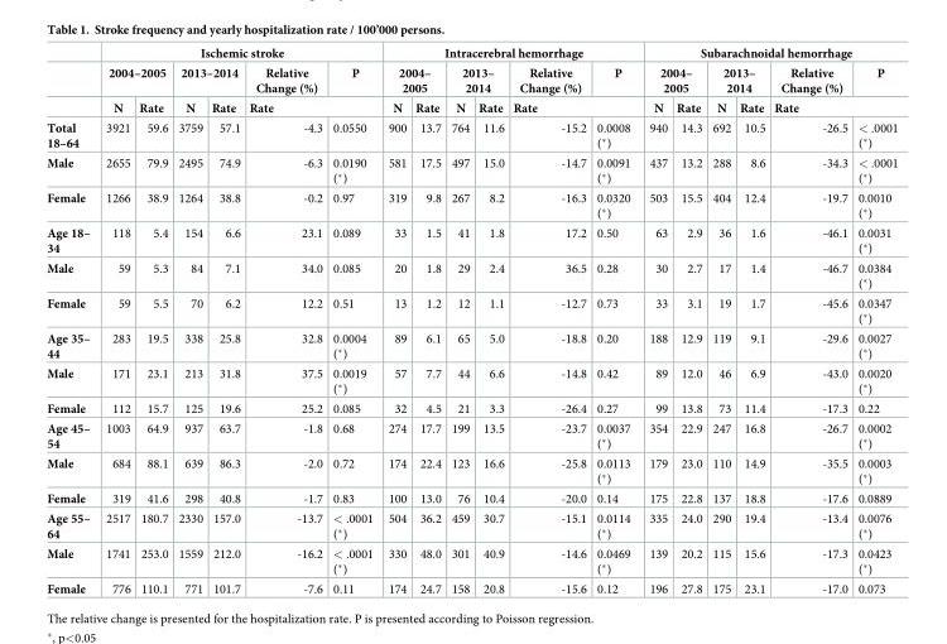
<table><thead><tr><td rowspan="3"></td><td colspan="6">Ischemic stroke</td><td colspan="6">Intracerebral hemorrhage</td><td colspan="6">Subarachnoidal hemorrhage</td></tr><tr><td colspan="2">2004–2005</td><td colspan="2">2013–2014</td><td>Relative Change (%)</td><td>P</td><td colspan="2">2004– 2005</td><td colspan="2">2013– 2014</td><td>Relative Change (%)</td><td>P</td><td colspan="2">2004– 2005</td><td colspan="2">2013– 2014</td><td>Relative Change (%)</td><td>P</td></tr><tr><td>N</td><td>Rate</td><td>N</td><td>Rate</td><td colspan="2">Rate</td><td>N</td><td>Rate</td><td>N</td><td>Rate</td><td colspan="2">Rate</td><td>N</td><td>Rate</td><td>N</td><td>Rate</td><td colspan="2">Rate</td></tr></thead><tbody><tr><td>Total 18–64</td><td>3921</td><td>59.6</td><td>3759</td><td>57.1</td><td>-4.3</td><td>0.0550</td><td>900</td><td>13.7</td><td>764</td><td>11.6</td><td>-15.2</td><td>0.0008 (*)</td><td>940</td><td>14.3</td><td>692</td><td>10.5</td><td>-26.5</td><td>&lt; .0001 (*)</td></tr><tr><td>Male</td><td>2655</td><td>79.9</td><td>2495</td><td>74.9</td><td>-6.3</td><td>0.0190 (*)</td><td>581</td><td>17.5</td><td>497</td><td>15.0</td><td>-14.7</td><td>0.0091 (*)</td><td>437</td><td>13.2</td><td>288</td><td>8.6</td><td>-34.3</td><td>&lt; .0001 (*)</td></tr><tr><td>Female</td><td>1266</td><td>38.9</td><td>1264</td><td>38.8</td><td>-0.2</td><td>0.97</td><td>319</td><td>9.8</td><td>267</td><td>8.2</td><td>-16.3</td><td>0.0320 (*)</td><td>503</td><td>15.5</td><td>404</td><td>12.4</td><td>-19.7</td><td>0.0010 (*)</td></tr><tr><td>Age 18– 34</td><td>118</td><td>5.4</td><td>154</td><td>6.6</td><td>23.1</td><td>0.089</td><td>33</td><td>1.5</td><td>41</td><td>1.8</td><td>17.2</td><td>0.50</td><td>63</td><td>2.9</td><td>36</td><td>1.6</td><td>-46.1</td><td>0.0031 (*)</td></tr><tr><td>Male</td><td>59</td><td>5.3</td><td>84</td><td>7.1</td><td>34.0</td><td>0.085</td><td>20</td><td>1.8</td><td>29</td><td>2.4</td><td>36.5</td><td>0.28</td><td>30</td><td>2.7</td><td>17</td><td>1.4</td><td>-46.7</td><td>0.0384 (*)</td></tr><tr><td>Female</td><td>59</td><td>5.5</td><td>70</td><td>6.2</td><td>12.2</td><td>0.51</td><td>13</td><td>1.2</td><td>12</td><td>1.1</td><td>-12.7</td><td>0.73</td><td>33</td><td>3.1</td><td>19</td><td>1.7</td><td>-45.6</td><td>0.0347 (*)</td></tr><tr><td>Age 35– 44</td><td>283</td><td>19.5</td><td>338</td><td>25.8</td><td>32.8</td><td>0.0004 (*)</td><td>89</td><td>6.1</td><td>65</td><td>5.0</td><td>-18.8</td><td>0.20</td><td>188</td><td>12.9</td><td>119</td><td>9.1</td><td>-29.6</td><td>0.0027 (*)</td></tr><tr><td>Male</td><td>171</td><td>23.1</td><td>213</td><td>31.8</td><td>37.5</td><td>0.0019 (*)</td><td>57</td><td>7.7</td><td>44</td><td>6.6</td><td>-14.8</td><td>0.42</td><td>89</td><td>12.0</td><td>46</td><td>6.9</td><td>-43.0</td><td>0.0020 (*)</td></tr><tr><td>Female</td><td>112</td><td>15.7</td><td>125</td><td>19.6</td><td>25.2</td><td>0.085</td><td>32</td><td>4.5</td><td>21</td><td>3.3</td><td>-26.4</td><td>0.27</td><td>99</td><td>13.8</td><td>73</td><td>11.4</td><td>-17.3</td><td>0.22</td></tr><tr><td>Age 45– 54</td><td>1003</td><td>64.9</td><td>937</td><td>63.7</td><td>-1.8</td><td>0.68</td><td>274</td><td>17.7</td><td>199</td><td>13.5</td><td>-23.7</td><td>0.0037 (*)</td><td>354</td><td>22.9</td><td>247</td><td>16.8</td><td>-26.7</td><td>0.0002 (*)</td></tr><tr><td>Male</td><td>684</td><td>88.1</td><td>639</td><td>86.3</td><td>-2.0</td><td>0.72</td><td>174</td><td>22.4</td><td>123</td><td>16.6</td><td>-25.8</td><td>0.0113 (*)</td><td>179</td><td>23.0</td><td>110</td><td>14.9</td><td>-35.5</td><td>0.0003 (*)</td></tr><tr><td>Female</td><td>319</td><td>41.6</td><td>298</td><td>40.8</td><td>-1.7</td><td>0.83</td><td>100</td><td>13.0</td><td>76</td><td>10.4</td><td>-20.0</td><td>0.14</td><td>175</td><td>22.8</td><td>137</td><td>18.8</td><td>-17.6</td><td>0.0889</td></tr><tr><td>Age 55– 64</td><td>2517</td><td>180.7</td><td>2330</td><td>157.0</td><td>-13.7</td><td>&lt; .0001 (*)</td><td>504</td><td>36.2</td><td>459</td><td>30.7</td><td>-15.1</td><td>0.0114 (*)</td><td>335</td><td>24.0</td><td>290</td><td>19.4</td><td>-13.4</td><td>0.0076 (*)</td></tr><tr><td>Male</td><td>1741</td><td>253.0</td><td>1559</td><td>212.0</td><td>-16.2</td><td>&lt; .0001 (*)</td><td>330</td><td>48.0</td><td>301</td><td>40.9</td><td>-14.6</td><td>0.0469 (*)</td><td>139</td><td>20.2</td><td>115</td><td>15.6</td><td>-17.3</td><td>0.0423 (*)</td></tr><tr><td>Female</td><td>776</td><td>110.1</td><td>771</td><td>101.7</td><td>-7.6</td><td>0.11</td><td>174</td><td>24.7</td><td>158</td><td>20.8</td><td>-15.6</td><td>0.12</td><td>196</td><td>27.8</td><td>175</td><td>23.1</td><td>-17.0</td><td>0.073</td></tr></tbody></table>